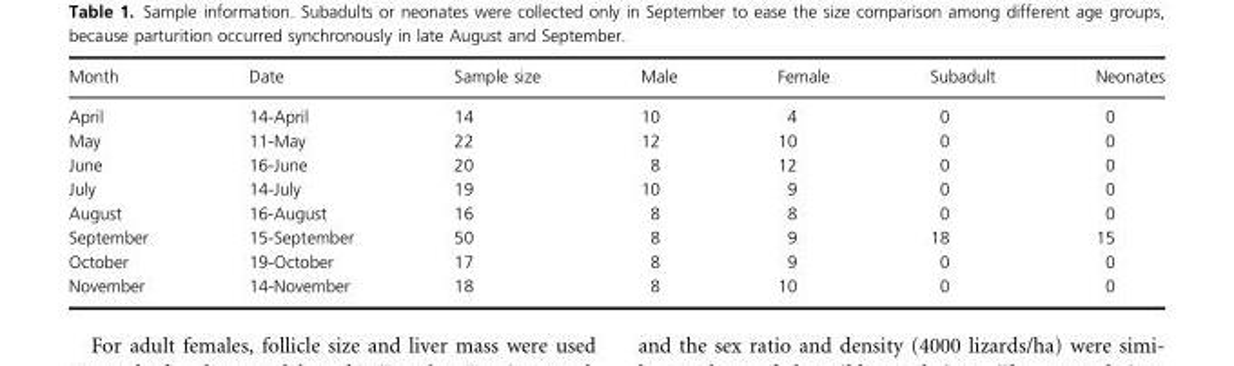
<table><thead><tr><td>Month</td><td>Date</td><td>Sample size</td><td>Male</td><td>Female</td><td>Subadult</td><td>Neonates</td></tr></thead><tbody><tr><td>April</td><td>14-April</td><td>14</td><td>10</td><td>4</td><td>0</td><td>0</td></tr><tr><td>May</td><td>11-May</td><td>22</td><td>12</td><td>10</td><td>0</td><td>0</td></tr><tr><td>June</td><td>16-June</td><td>20</td><td>8</td><td>12</td><td>0</td><td>0</td></tr><tr><td>July</td><td>14-July</td><td>19</td><td>10</td><td>9</td><td>0</td><td>0</td></tr><tr><td>August</td><td>16-August</td><td>16</td><td>8</td><td>8</td><td>0</td><td>0</td></tr><tr><td>September</td><td>15-September</td><td>50</td><td>8</td><td>9</td><td>18</td><td>15</td></tr><tr><td>October</td><td>19-October</td><td>17</td><td>8</td><td>9</td><td>0</td><td>0</td></tr><tr><td>November</td><td>14-November</td><td>18</td><td>8</td><td>10</td><td>0</td><td>0</td></tr></tbody></table>